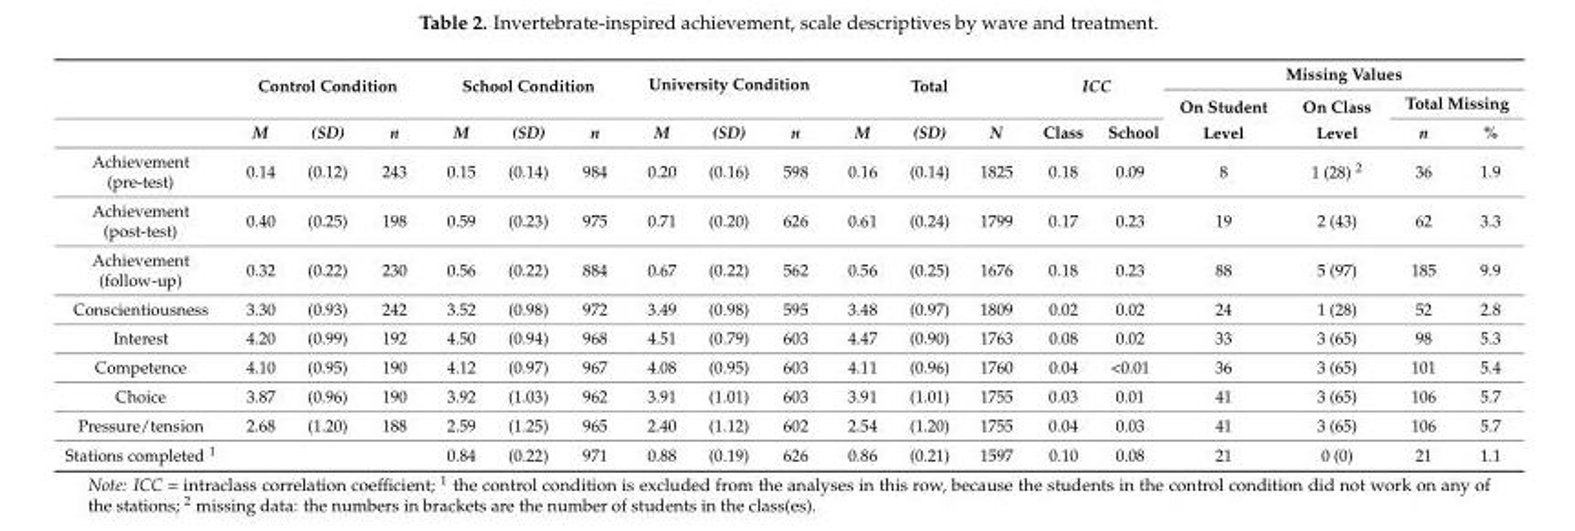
<table><thead><tr><td rowspan="3"></td><td rowspan="2" colspan="3">Control Condition</td><td rowspan="2" colspan="3">School Condition</td><td rowspan="2" colspan="3">University Condition</td><td rowspan="2" colspan="3">Total</td><td rowspan="2" colspan="2">ICC</td><td colspan="4">Missing Values</td></tr><tr><td rowspan="2">On Student Level</td><td rowspan="2">On Class Level</td><td colspan="2">Total Missing</td></tr><tr><td>M</td><td>(SD)</td><td>n</td><td>M</td><td>(SD)</td><td>n</td><td>M</td><td>(SD)</td><td>n</td><td>M</td><td>(SD)</td><td>N</td><td>Class</td><td>School</td><td>n</td><td>%</td></tr></thead><tbody><tr><td>Achievement (pre-test)</td><td>0.14</td><td>(0.12)</td><td>243</td><td>0.15</td><td>(0.14)</td><td>984</td><td>0.20</td><td>(0.16)</td><td>598</td><td>0.16</td><td>(0.14)</td><td>1825</td><td>0.18</td><td>0.09</td><td>8</td><td>1 (28) <sup>2</sup></td><td>36</td><td>1.9</td></tr><tr><td>Achievement (post-test)</td><td>0.40</td><td>(0.25)</td><td>198</td><td>0.59</td><td>(0.23)</td><td>975</td><td>0.71</td><td>(0.20)</td><td>626</td><td>0.61</td><td>(0.24)</td><td>1799</td><td>0.17</td><td>0.23</td><td>19</td><td>2 (43)</td><td>62</td><td>3.3</td></tr><tr><td>Achievement (follow-up)</td><td>0.32</td><td>(0.22)</td><td>230</td><td>0.56</td><td>(0.22)</td><td>884</td><td>0.67</td><td>(0.22)</td><td>562</td><td>0.56</td><td>(0.25)</td><td>1676</td><td>0.18</td><td>0.23</td><td>88</td><td>5 (97)</td><td>185</td><td>9.9</td></tr><tr><td>Conscientiousness</td><td>3.30</td><td>(0.93)</td><td>242</td><td>3.52</td><td>(0.98)</td><td>972</td><td>3.49</td><td>(0.98)</td><td>595</td><td>3.48</td><td>(0.97)</td><td>1809</td><td>0.02</td><td>0.02</td><td>24</td><td>1 (28)</td><td>52</td><td>2.8</td></tr><tr><td>Interest</td><td>4.20</td><td>(0.99)</td><td>192</td><td>4.50</td><td>(0.94)</td><td>968</td><td>4.51</td><td>(0.79)</td><td>603</td><td>4.47</td><td>(0.90)</td><td>1763</td><td>0.08</td><td>0.02</td><td>33</td><td>3 (65)</td><td>98</td><td>5.3</td></tr><tr><td>Competence</td><td>4.10</td><td>(0.95)</td><td>190</td><td>4.12</td><td>(0.97)</td><td>967</td><td>4.08</td><td>(0.95)</td><td>603</td><td>4.11</td><td>(0.96)</td><td>1760</td><td>0.04</td><td>&lt;0.01</td><td>36</td><td>3 (65)</td><td>101</td><td>5.4</td></tr><tr><td>Choice</td><td>3.87</td><td>(0.96)</td><td>190</td><td>3.92</td><td>(1.03)</td><td>962</td><td>3.91</td><td>(1.01)</td><td>603</td><td>3.91</td><td>(1.01)</td><td>1755</td><td>0.03</td><td>0.01</td><td>41</td><td>3 (65)</td><td>106</td><td>5.7</td></tr><tr><td>Pressure/tension</td><td>2.68</td><td>(1.20)</td><td>188</td><td>2.59</td><td>(1.25)</td><td>965</td><td>2.40</td><td>(1.12)</td><td>602</td><td>2.54</td><td>(1.20)</td><td>1755</td><td>0.04</td><td>0.03</td><td>41</td><td>3 (65)</td><td>106</td><td>5.7</td></tr><tr><td>Stations completed <sup>1</sup></td><td></td><td></td><td></td><td>0.84</td><td>(0.22)</td><td>971</td><td>0.88</td><td>(0.19)</td><td>626</td><td>0.86</td><td>(0.21)</td><td>1597</td><td>0.10</td><td>0.08</td><td>21</td><td>0 (0)</td><td>21</td><td>1.1</td></tr></tbody></table>